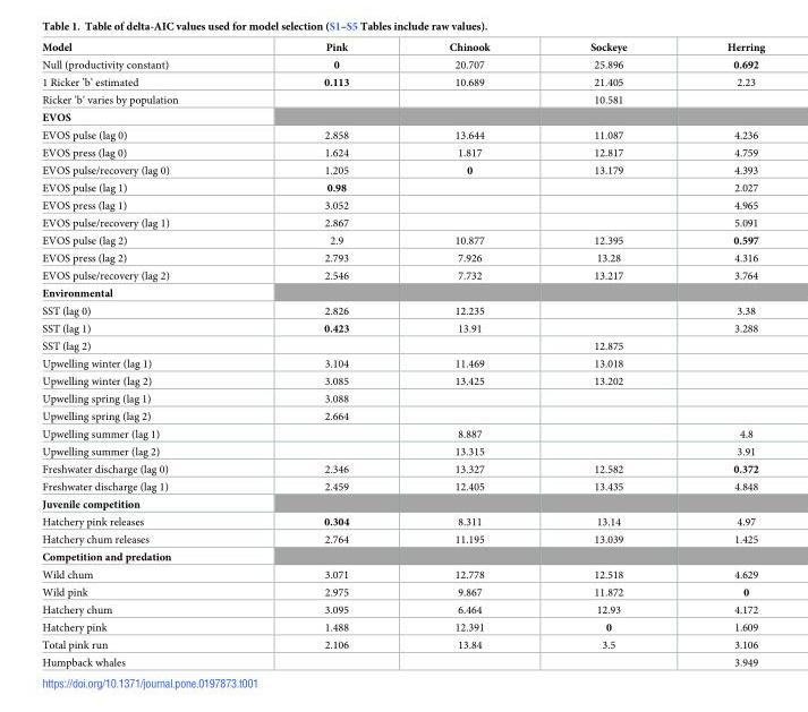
<table><thead><tr><td>Model</td><td>Pink</td><td>Chinook</td><td>Sockeye</td><td>Herring</td></tr></thead><tbody><tr><td>Null (productivity constant)</td><td>0</td><td>20.707</td><td>25.896</td><td>0.692</td></tr><tr><td>1 Ricker ’b’ estimated</td><td>0.113</td><td>10.689</td><td>21.405</td><td>2.23</td></tr><tr><td>Ricker ’b’ varies by population</td><td></td><td></td><td>10.581</td><td></td></tr><tr><td colspan="5">EVOS</td></tr><tr><td>EVOS pulse (lag 0)</td><td>2.858</td><td>13.644</td><td>11.087</td><td>4.236</td></tr><tr><td>EVOS press (lag 0)</td><td>1.624</td><td>1.817</td><td>12.817</td><td>4.759</td></tr><tr><td>EVOS pulse/recovery (lag 0)</td><td>1.205</td><td>0</td><td>13.179</td><td>4.393</td></tr><tr><td>EVOS pulse (lag 1)</td><td>0.98</td><td></td><td></td><td>2.027</td></tr><tr><td>EVOS press (lag 1)</td><td>3.052</td><td></td><td></td><td>4.965</td></tr><tr><td>EVOS pulse/recovery (lag 1)</td><td>2.867</td><td></td><td></td><td>5.091</td></tr><tr><td>EVOS pulse (lag 2)</td><td>2.9</td><td>10.877</td><td>12.395</td><td>0.597</td></tr><tr><td>EVOS press (lag 2)</td><td>2.793</td><td>7.926</td><td>13.28</td><td>4.316</td></tr><tr><td>EVOS pulse/recovery (lag 2)</td><td>2.546</td><td>7.732</td><td>13.217</td><td>3.764</td></tr><tr><td colspan="5">Environmental</td></tr><tr><td>SST (lag 0)</td><td>2.826</td><td>12.235</td><td></td><td>3.38</td></tr><tr><td>SST (lag 1)</td><td>0.423</td><td>13.91</td><td></td><td>3.288</td></tr><tr><td>SST (lag 2)</td><td></td><td></td><td>12.875</td><td></td></tr><tr><td>Upwelling winter (lag 1)</td><td>3.104</td><td>11.469</td><td>13.018</td><td></td></tr><tr><td>Upwelling winter (lag 2)</td><td>3.085</td><td>13.425</td><td>13.202</td><td></td></tr><tr><td>Upwelling spring (lag 1)</td><td>3.088</td><td></td><td></td><td></td></tr><tr><td>Upwelling spring (lag 2)</td><td>2.664</td><td></td><td></td><td></td></tr><tr><td>Upwelling summer (lag 1)</td><td></td><td>8.887</td><td></td><td>4.8</td></tr><tr><td>Upwelling summer (lag 2)</td><td></td><td>13.315</td><td></td><td>3.91</td></tr><tr><td>Freshwater discharge (lag 0)</td><td>2.346</td><td>13.327</td><td>12.582</td><td>0.372</td></tr><tr><td>Freshwater discharge (lag 1)</td><td>2.459</td><td>12.405</td><td>13.435</td><td>4.848</td></tr><tr><td colspan="5">Juvenile competition</td></tr><tr><td>Hatchery pink releases</td><td>0.304</td><td>8.311</td><td>13.14</td><td>4.97</td></tr><tr><td>Hatchery chum releases</td><td>2.764</td><td>11.195</td><td>13.039</td><td>1.425</td></tr><tr><td colspan="5">Competition and predation</td></tr><tr><td>Wild chum</td><td>3.071</td><td>12.778</td><td>12.518</td><td>4.629</td></tr><tr><td>Wild pink</td><td>2.975</td><td>9.867</td><td>11.872</td><td>0</td></tr><tr><td>Hatchery chum</td><td>3.095</td><td>6.464</td><td>12.93</td><td>4.172</td></tr><tr><td>Hatchery pink</td><td>1.488</td><td>12.391</td><td>0</td><td>1.609</td></tr><tr><td>Total pink run</td><td>2.106</td><td>13.84</td><td>3.5</td><td>3.106</td></tr><tr><td>Humpback whales</td><td></td><td></td><td></td><td>3.949</td></tr></tbody></table>